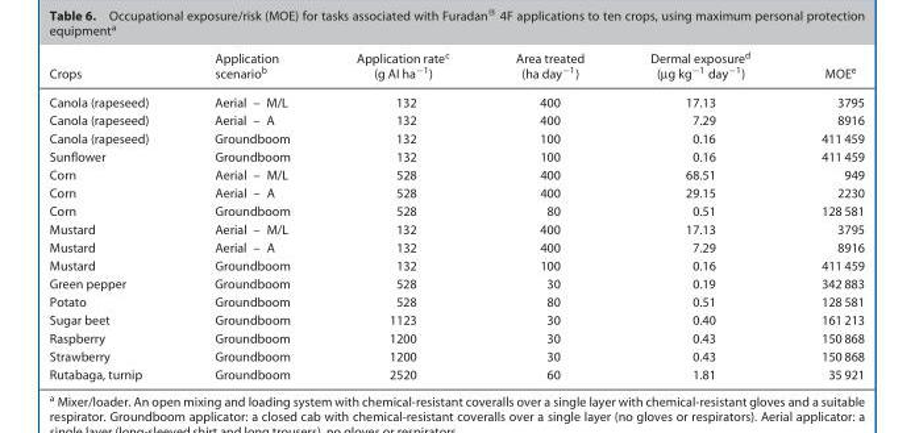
<table><thead><tr><td>Crops</td><td>Application scenario<sup>b</sup></td><td>Application rate<sup>c</sup> (g AI ha<sup>−1</sup>)</td><td>Area treated (ha day<sup>−1</sup>)</td><td>Dermal exposure<sup>d</sup> (µg kg<sup>−1</sup> day<sup>−1</sup>)</td><td>MOE<sup>e</sup></td></tr></thead><tbody><tr><td>Canola (rapeseed)</td><td>Aerial – M/L</td><td>132</td><td>400</td><td>17.13</td><td>3795</td></tr><tr><td>Canola (rapeseed)</td><td>Aerial – A</td><td>132</td><td>400</td><td>7.29</td><td>8916</td></tr><tr><td>Canola (rapeseed)</td><td>Groundboom</td><td>132</td><td>100</td><td>0.16</td><td>411 459</td></tr><tr><td>Sunflower</td><td>Groundboom</td><td>132</td><td>100</td><td>0.16</td><td>411 459</td></tr><tr><td>Corn</td><td>Aerial – M/L</td><td>528</td><td>400</td><td>68.51</td><td>949</td></tr><tr><td>Corn</td><td>Aerial – A</td><td>528</td><td>400</td><td>29.15</td><td>2230</td></tr><tr><td>Corn</td><td>Groundboom</td><td>528</td><td>80</td><td>0.51</td><td>128 581</td></tr><tr><td>Mustard</td><td>Aerial – M/L</td><td>132</td><td>400</td><td>17.13</td><td>3795</td></tr><tr><td>Mustard</td><td>Aerial – A</td><td>132</td><td>400</td><td>7.29</td><td>8916</td></tr><tr><td>Mustard</td><td>Groundboom</td><td>132</td><td>100</td><td>0.16</td><td>411 459</td></tr><tr><td>Green pepper</td><td>Groundboom</td><td>528</td><td>30</td><td>0.19</td><td>342 883</td></tr><tr><td>Potato</td><td>Groundboom</td><td>528</td><td>80</td><td>0.51</td><td>128 581</td></tr><tr><td>Sugar beet</td><td>Groundboom</td><td>1123</td><td>30</td><td>0.40</td><td>161 213</td></tr><tr><td>Raspberry</td><td>Groundboom</td><td>1200</td><td>30</td><td>0.43</td><td>150 868</td></tr><tr><td>Strawberry</td><td>Groundboom</td><td>1200</td><td>30</td><td>0.43</td><td>150 868</td></tr><tr><td>Rutabaga, turnip</td><td>Groundboom</td><td>2520</td><td>60</td><td>1.81</td><td>35 921</td></tr></tbody></table>